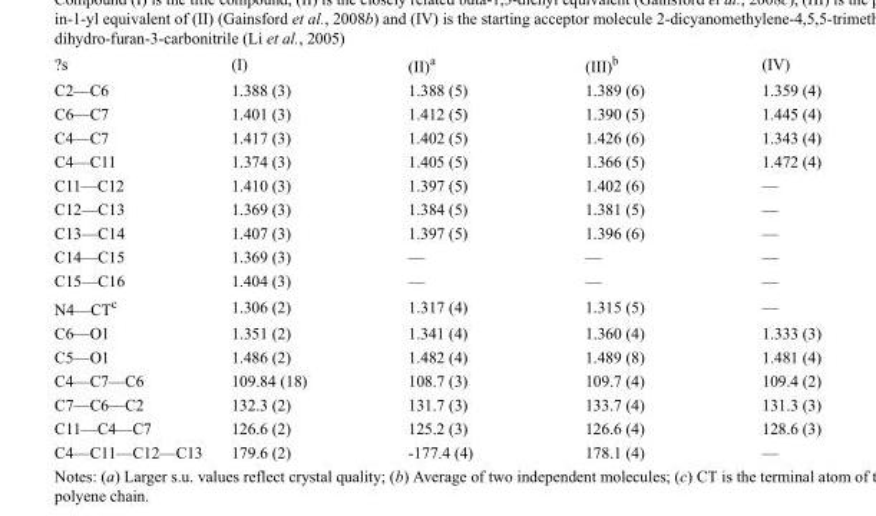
<table><thead><tr><td>?s</td><td>(I)</td><td>(II)<sup>a</sup></td><td>(III)<sup>b</sup></td><td>(IV)</td></tr></thead><tbody><tr><td>C2—C6</td><td>1.388 (3)</td><td>1.388 (5)</td><td>1.389 (6)</td><td>1.359 (4)</td></tr><tr><td>C6—C7</td><td>1.401 (3)</td><td>1.412 (5)</td><td>1.390 (5)</td><td>1.445 (4)</td></tr><tr><td>C4—C7</td><td>1.417 (3)</td><td>1.402 (5)</td><td>1.426 (6)</td><td>1.343 (4)</td></tr><tr><td>C4—C11</td><td>1.374 (3)</td><td>1.405 (5)</td><td>1.366 (5)</td><td>1.472 (4)</td></tr><tr><td>C11—C12</td><td>1.410 (3)</td><td>1.397 (5)</td><td>1.402 (6)</td><td>—</td></tr><tr><td>C12—C13</td><td>1.369 (3)</td><td>1.384 (5)</td><td>1.381 (5)</td><td>—</td></tr><tr><td>C13—C14</td><td>1.407 (3)</td><td>1.397 (5)</td><td>1.396 (6)</td><td>—</td></tr><tr><td>C14—C15</td><td>1.369 (3)</td><td>—</td><td>—</td><td>—</td></tr><tr><td>C15—C16</td><td>1.404 (3)</td><td>—</td><td>—</td><td>—</td></tr><tr><td>N4—CT<sup>c</sup></td><td>1.306 (2)</td><td>1.317 (4)</td><td>1.315 (5)</td><td>—</td></tr><tr><td>C6—O1</td><td>1.351 (2)</td><td>1.341 (4)</td><td>1.360 (4)</td><td>1.333 (3)</td></tr><tr><td>C5—O1</td><td>1.486 (2)</td><td>1.482 (4)</td><td>1.489 (8)</td><td>1.481 (4)</td></tr><tr><td>C4—C7—C6</td><td>109.84 (18)</td><td>108.7 (3)</td><td>109.7 (4)</td><td>109.4 (2)</td></tr><tr><td>C7—C6—C2</td><td>132.3 (2)</td><td>131.7 (3)</td><td>133.7 (4)</td><td>131.3 (3)</td></tr><tr><td>C11—C4—C7</td><td>126.6 (2)</td><td>125.2 (3)</td><td>126.6 (4)</td><td>128.6 (3)</td></tr><tr><td>C4—C11—C12—C13</td><td>179.6 (2)</td><td>-177.4 (4)</td><td>178.1 (4)</td><td>—</td></tr></tbody></table>